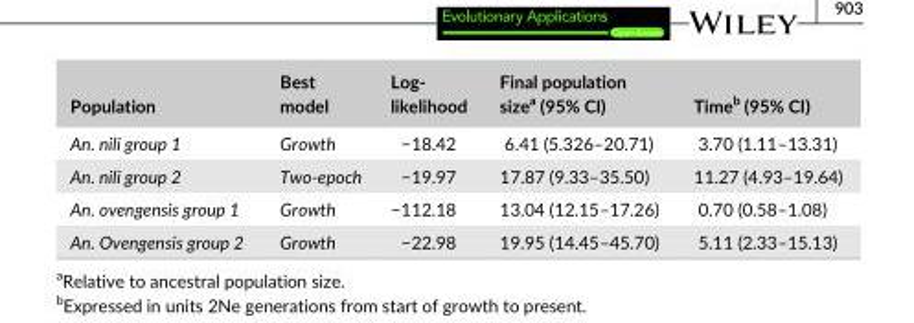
<table><thead><tr><td>Population</td><td>Best model</td><td>Log- likelihood</td><td>Final population size<sup>a</sup> (95% CI)</td><td>Time<sup>b</sup> (95% CI)</td></tr></thead><tbody><tr><td>An. nili group 1</td><td>Growth</td><td>−18.42</td><td>6.41 (5.326–20.71)</td><td>3.70 (1.11–13.31)</td></tr><tr><td>An. nili group 2</td><td>Two-epoch</td><td>−19.97</td><td>17.87 (9.33–35.50)</td><td>11.27 (4.93–19.64)</td></tr><tr><td>An. ovengensis group 1</td><td>Growth</td><td>−112.18</td><td>13.04 (12.15–17.26)</td><td>0.70 (0.58–1.08)</td></tr><tr><td>An. Ovengensis group 2</td><td>Growth</td><td>−22.98</td><td>19.95 (14.45–45.70)</td><td>5.11 (2.33–15.13)</td></tr></tbody></table>